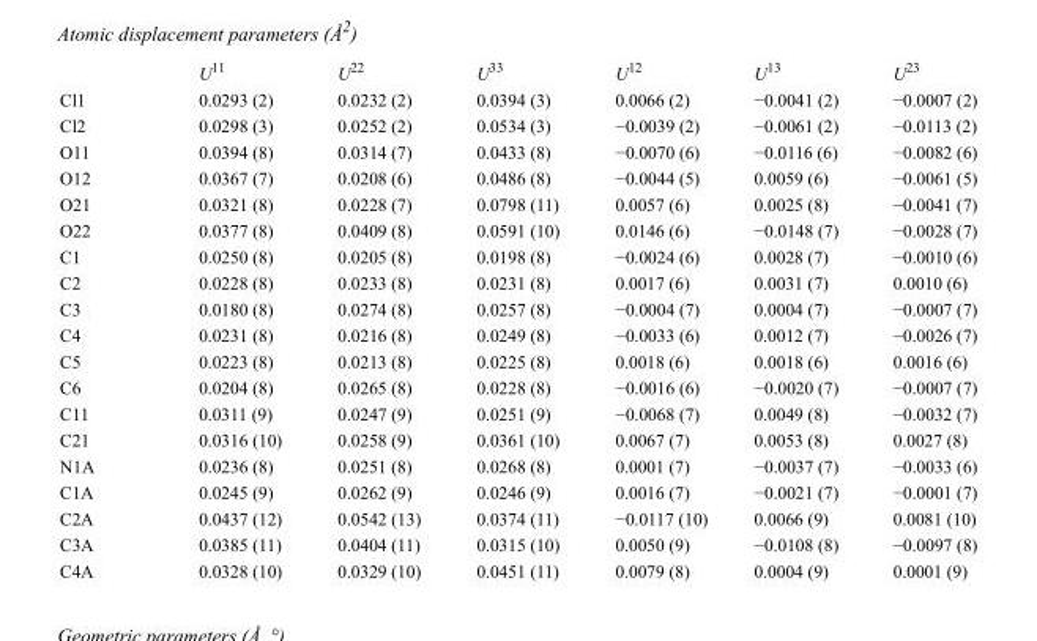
<table><thead><tr><td></td><td>U<sup>11</sup></td><td>U<sup>22</sup></td><td>U<sup>33</sup></td><td>U<sup>12</sup></td><td>U<sup>13</sup></td><td>U<sup>23</sup></td></tr></thead><tbody><tr><td>Cl1</td><td>0.0293 (2)</td><td>0.0232 (2)</td><td>0.0394 (3)</td><td>0.0066 (2)</td><td>−0.0041 (2)</td><td>−0.0007 (2)</td></tr><tr><td>Cl2</td><td>0.0298 (3)</td><td>0.0252 (2)</td><td>0.0534 (3)</td><td>−0.0039 (2)</td><td>−0.0061 (2)</td><td>−0.0113 (2)</td></tr><tr><td>O11</td><td>0.0394 (8)</td><td>0.0314 (7)</td><td>0.0433 (8)</td><td>−0.0070 (6)</td><td>−0.0116 (6)</td><td>−0.0082 (6)</td></tr><tr><td>O12</td><td>0.0367 (7)</td><td>0.0208 (6)</td><td>0.0486 (8)</td><td>−0.0044 (5)</td><td>0.0059 (6)</td><td>−0.0061 (5)</td></tr><tr><td>O21</td><td>0.0321 (8)</td><td>0.0228 (7)</td><td>0.0798 (11)</td><td>0.0057 (6)</td><td>0.0025 (8)</td><td>−0.0041 (7)</td></tr><tr><td>O22</td><td>0.0377 (8)</td><td>0.0409 (8)</td><td>0.0591 (10)</td><td>0.0146 (6)</td><td>−0.0148 (7)</td><td>−0.0028 (7)</td></tr><tr><td>C1</td><td>0.0250 (8)</td><td>0.0205 (8)</td><td>0.0198 (8)</td><td>−0.0024 (6)</td><td>0.0028 (7)</td><td>−0.0010 (6)</td></tr><tr><td>C2</td><td>0.0228 (8)</td><td>0.0233 (8)</td><td>0.0231 (8)</td><td>0.0017 (6)</td><td>0.0031 (7)</td><td>0.0010 (6)</td></tr><tr><td>C3</td><td>0.0180 (8)</td><td>0.0274 (8)</td><td>0.0257 (8)</td><td>−0.0004 (7)</td><td>0.0004 (7)</td><td>−0.0007 (7)</td></tr><tr><td>C4</td><td>0.0231 (8)</td><td>0.0216 (8)</td><td>0.0249 (8)</td><td>−0.0033 (6)</td><td>0.0012 (7)</td><td>−0.0026 (7)</td></tr><tr><td>C5</td><td>0.0223 (8)</td><td>0.0213 (8)</td><td>0.0225 (8)</td><td>0.0018 (6)</td><td>0.0018 (6)</td><td>0.0016 (6)</td></tr><tr><td>C6</td><td>0.0204 (8)</td><td>0.0265 (8)</td><td>0.0228 (8)</td><td>−0.0016 (6)</td><td>−0.0020 (7)</td><td>−0.0007 (7)</td></tr><tr><td>C11</td><td>0.0311 (9)</td><td>0.0247 (9)</td><td>0.0251 (9)</td><td>−0.0068 (7)</td><td>0.0049 (8)</td><td>−0.0032 (7)</td></tr><tr><td>C21</td><td>0.0316 (10)</td><td>0.0258 (9)</td><td>0.0361 (10)</td><td>0.0067 (7)</td><td>0.0053 (8)</td><td>0.0027 (8)</td></tr><tr><td>N1A</td><td>0.0236 (8)</td><td>0.0251 (8)</td><td>0.0268 (8)</td><td>0.0001 (7)</td><td>−0.0037 (7)</td><td>−0.0033 (6)</td></tr><tr><td>C1A</td><td>0.0245 (9)</td><td>0.0262 (9)</td><td>0.0246 (9)</td><td>0.0016 (7)</td><td>−0.0021 (7)</td><td>−0.0001 (7)</td></tr><tr><td>C2A</td><td>0.0437 (12)</td><td>0.0542 (13)</td><td>0.0374 (11)</td><td>−0.0117 (10)</td><td>0.0066 (9)</td><td>0.0081 (10)</td></tr><tr><td>C3A</td><td>0.0385 (11)</td><td>0.0404 (11)</td><td>0.0315 (10)</td><td>0.0050 (9)</td><td>−0.0108 (8)</td><td>−0.0097 (8)</td></tr><tr><td>C4A</td><td>0.0328 (10)</td><td>0.0329 (10)</td><td>0.0451 (11)</td><td>0.0079 (8)</td><td>0.0004 (9)</td><td>0.0001 (9)</td></tr></tbody></table>